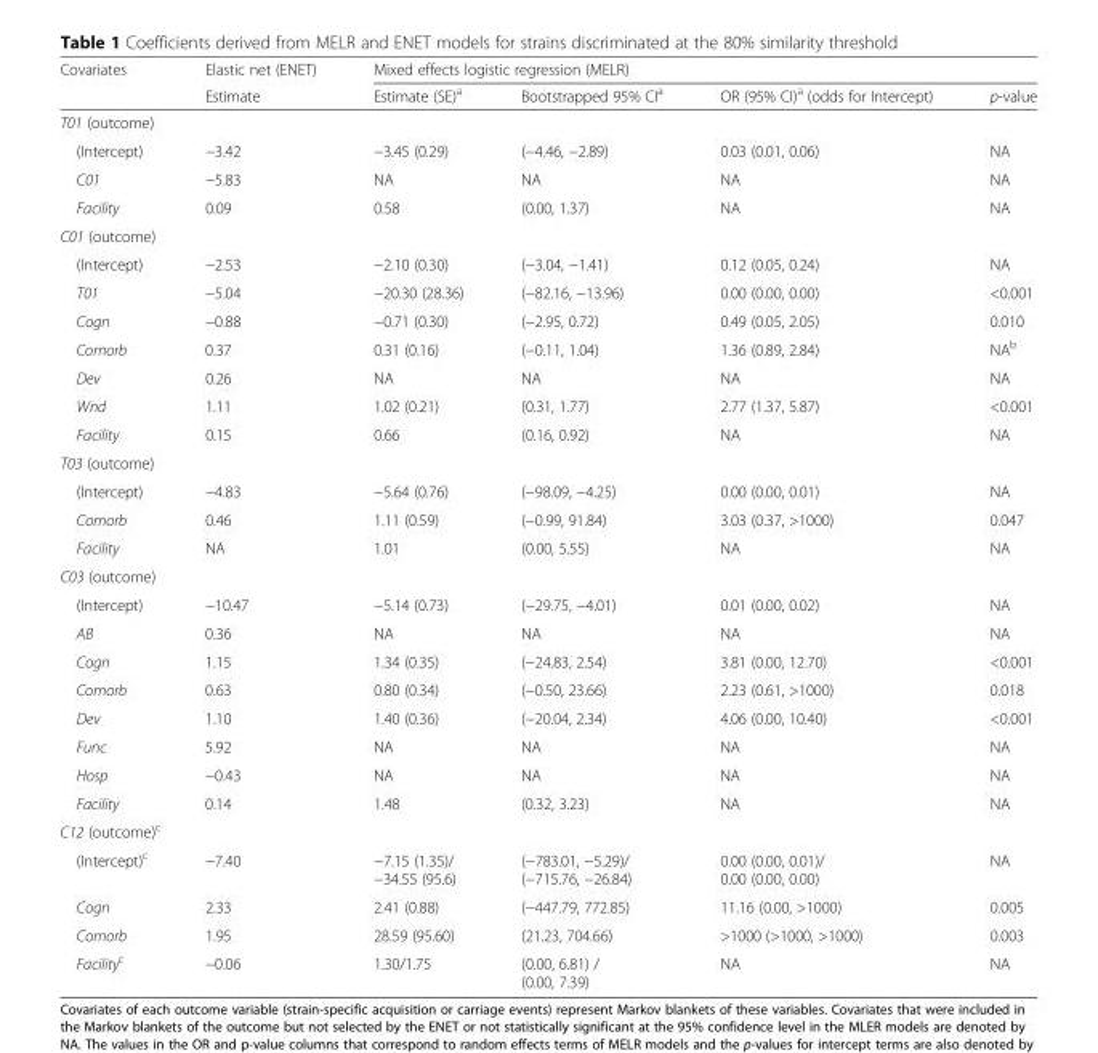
<table><thead><tr><td rowspan="2">Covariates</td><td rowspan="2">Elastic net (ENET) Estimate</td><td colspan="4">Mixed effects logistic regression (MELR)</td></tr><tr><td>Estimate (SE)<sup>a</sup></td><td>Bootstrapped 95% CI<sup>a</sup></td><td>OR (95% CI)<sup>a</sup> (odds for Intercept)</td><td>p-value</td></tr></thead><tbody><tr><td colspan="6">T01 (outcome)</td></tr><tr><td>(Intercept)</td><td>−3.42</td><td>−3.45 (0.29)</td><td>(−4.46, −2.89)</td><td>0.03 (0.01, 0.06)</td><td>NA</td></tr><tr><td>C01</td><td>−5.83</td><td>NA</td><td>NA</td><td>NA</td><td>NA</td></tr><tr><td>Facility</td><td>0.09</td><td>0.58</td><td>(0.00, 1.37)</td><td>NA</td><td>NA</td></tr><tr><td colspan="6">C01 (outcome)</td></tr><tr><td>(Intercept)</td><td>−2.53</td><td>−2.10 (0.30)</td><td>(−3.04, −1.41)</td><td>0.12 (0.05, 0.24)</td><td>NA</td></tr><tr><td>T01</td><td>−5.04</td><td>−20.30 (28.36)</td><td>(−82.16, −13.96)</td><td>0.00 (0.00, 0.00)</td><td>&lt;0.001</td></tr><tr><td>Cogn</td><td>−0.88</td><td>−0.71 (0.30)</td><td>(−2.95, 0.72)</td><td>0.49 (0.05, 2.05)</td><td>0.010</td></tr><tr><td>Comorb</td><td>0.37</td><td>0.31 (0.16)</td><td>(−0.11, 1.04)</td><td>1.36 (0.89, 2.84)</td><td>NA<sup>b</sup></td></tr><tr><td>Dev</td><td>0.26</td><td>NA</td><td>NA</td><td>NA</td><td>NA</td></tr><tr><td>Wnd</td><td>1.11</td><td>1.02 (0.21)</td><td>(0.31, 1.77)</td><td>2.77 (1.37, 5.87)</td><td>&lt;0.001</td></tr><tr><td>Facility</td><td>0.15</td><td>0.66</td><td>(0.16, 0.92)</td><td>NA</td><td>NA</td></tr><tr><td colspan="6">T03 (outcome)</td></tr><tr><td>(Intercept)</td><td>−4.83</td><td>−5.64 (0.76)</td><td>(−98.09, −4.25)</td><td>0.00 (0.00, 0.01)</td><td>NA</td></tr><tr><td>Comorb</td><td>0.46</td><td>1.11 (0.59)</td><td>(−0.99, 91.84)</td><td>3.03 (0.37, &gt;1000)</td><td>0.047</td></tr><tr><td>Facility</td><td>NA</td><td>1.01</td><td>(0.00, 5.55)</td><td>NA</td><td>NA</td></tr><tr><td colspan="6">C03 (outcome)</td></tr><tr><td>(Intercept)</td><td>−10.47</td><td>−5.14 (0.73)</td><td>(−29.75, −4.01)</td><td>0.01 (0.00, 0.02)</td><td>NA</td></tr><tr><td>AB</td><td>0.36</td><td>NA</td><td>NA</td><td>NA</td><td>NA</td></tr><tr><td>Cogn</td><td>1.15</td><td>1.34 (0.35)</td><td>(−24.83, 2.54)</td><td>3.81 (0.00, 12.70)</td><td>&lt;0.001</td></tr><tr><td>Comorb</td><td>0.63</td><td>0.80 (0.34)</td><td>(−0.50, 23.66)</td><td>2.23 (0.61, &gt;1000)</td><td>0.018</td></tr><tr><td>Dev</td><td>1.10</td><td>1.40 (0.36)</td><td>(−20.04, 2.34)</td><td>4.06 (0.00, 10.40)</td><td>&lt;0.001</td></tr><tr><td>Func</td><td>5.92</td><td>NA</td><td>NA</td><td>NA</td><td>NA</td></tr><tr><td>Hosp</td><td>−0.43</td><td>NA</td><td>NA</td><td>NA</td><td>NA</td></tr><tr><td>Facility</td><td>0.14</td><td>1.48</td><td>(0.32, 3.23)</td><td>NA</td><td>NA</td></tr><tr><td colspan="6">C12 (outcome)<sup>c</sup></td></tr><tr><td>(Intercept)<sup>c</sup></td><td>−7.40</td><td>−7.15 (1.35)/ −34.55 (95.6)</td><td>(−783.01, −5.29)/ (−715.76, −26.84)</td><td>0.00 (0.00, 0.01)/ 0.00 (0.00, 0.00)</td><td>NA</td></tr><tr><td>Cogn</td><td>2.33</td><td>2.41 (0.88)</td><td>(−447.79, 772.85)</td><td>11.16 (0.00, &gt;1000)</td><td>0.005</td></tr><tr><td>Comorb</td><td>1.95</td><td>28.59 (95.60)</td><td>(21.23, 704.66)</td><td>&gt;1000 (&gt;1000, &gt;1000)</td><td>0.003</td></tr><tr><td>Facility<sup>c</sup></td><td>−0.06</td><td>1.30/1.75</td><td>(0.00, 6.81) / (0.00, 7.39)</td><td>NA</td><td>NA</td></tr></tbody></table>